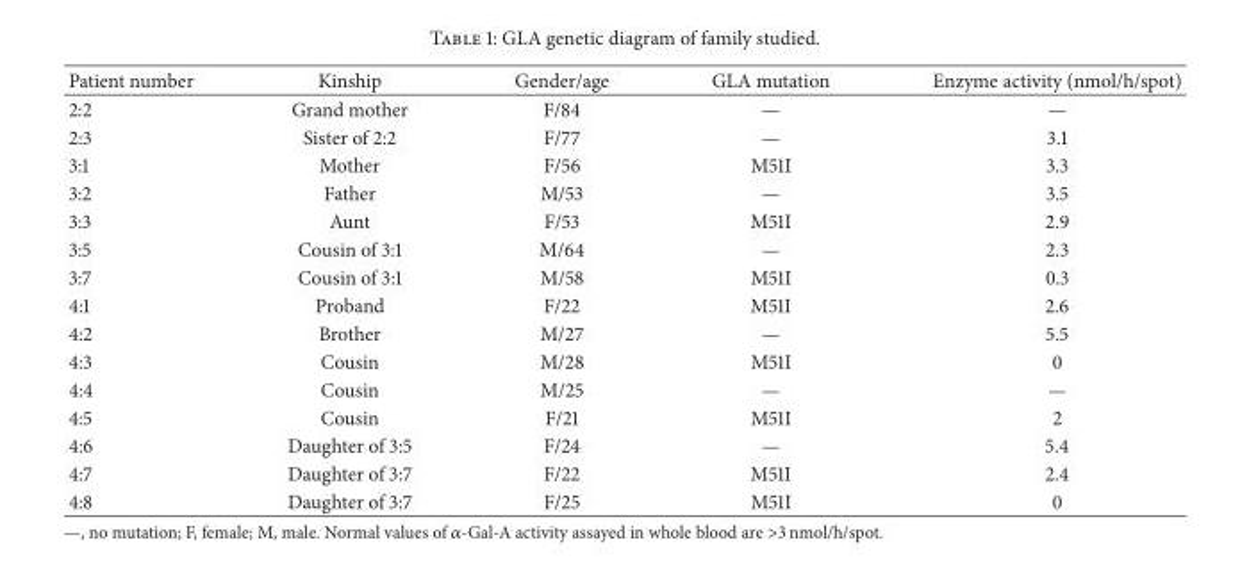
<table><thead><tr><td>Patient number</td><td>Kinship</td><td>Gender/age</td><td>GLA mutation</td><td>Enzyme activity (nmol/h/spot)</td></tr></thead><tbody><tr><td>2:2</td><td>Grand mother</td><td>F/84</td><td>—</td><td>—</td></tr><tr><td>2:3</td><td>Sister of 2:2</td><td>F/77</td><td>—</td><td>3.1</td></tr><tr><td>3:1</td><td>Mother</td><td>F/56</td><td>M51I</td><td>3.3</td></tr><tr><td>3:2</td><td>Father</td><td>M/53</td><td>—</td><td>3.5</td></tr><tr><td>3:3</td><td>Aunt</td><td>F/53</td><td>M51I</td><td>2.9</td></tr><tr><td>3:5</td><td>Cousin of 3:1</td><td>M/64</td><td>—</td><td>2.3</td></tr><tr><td>3:7</td><td>Cousin of 3:1</td><td>M/58</td><td>M51I</td><td>0.3</td></tr><tr><td>4:1</td><td>Proband</td><td>F/22</td><td>M51I</td><td>2.6</td></tr><tr><td>4:2</td><td>Brother</td><td>M/27</td><td>—</td><td>5.5</td></tr><tr><td>4:3</td><td>Cousin</td><td>M/28</td><td>M51I</td><td>0</td></tr><tr><td>4:4</td><td>Cousin</td><td>M/25</td><td>—</td><td>—</td></tr><tr><td>4:5</td><td>Cousin</td><td>F/21</td><td>M51I</td><td>2</td></tr><tr><td>4:6</td><td>Daughter of 3:5</td><td>F/24</td><td>—</td><td>5.4</td></tr><tr><td>4:7</td><td>Daughter of 3:7</td><td>F/22</td><td>M51I</td><td>2.4</td></tr><tr><td>4:8</td><td>Daughter of 3:7</td><td>F/25</td><td>M51I</td><td>0</td></tr></tbody></table>